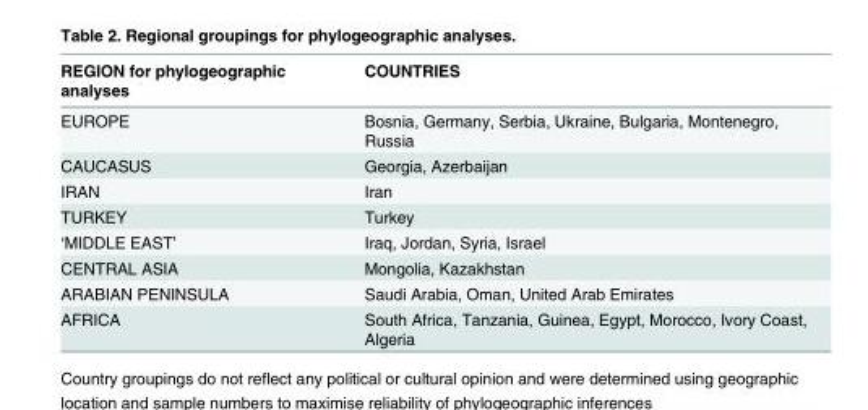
<table><thead><tr><td>REGION for phylogeographic analyses</td><td>COUNTRIES</td></tr></thead><tbody><tr><td>EUROPE</td><td>Bosnia, Germany, Serbia, Ukraine, Bulgaria, Montenegro, Russia</td></tr><tr><td>CAUCASUS</td><td>Georgia, Azerbaijan</td></tr><tr><td>IRAN</td><td>Iran</td></tr><tr><td>TURKEY</td><td>Turkey</td></tr><tr><td>‘MIDDLE EAST’</td><td>Iraq, Jordan, Syria, Israel</td></tr><tr><td>CENTRAL ASIA</td><td>Mongolia, Kazakhstan</td></tr><tr><td>ARABIAN PENINSULA</td><td>Saudi Arabia, Oman, United Arab Emirates</td></tr><tr><td>AFRICA</td><td>South Africa, Tanzania, Guinea, Egypt, Morocco, Ivory Coast, Algeria</td></tr></tbody></table>